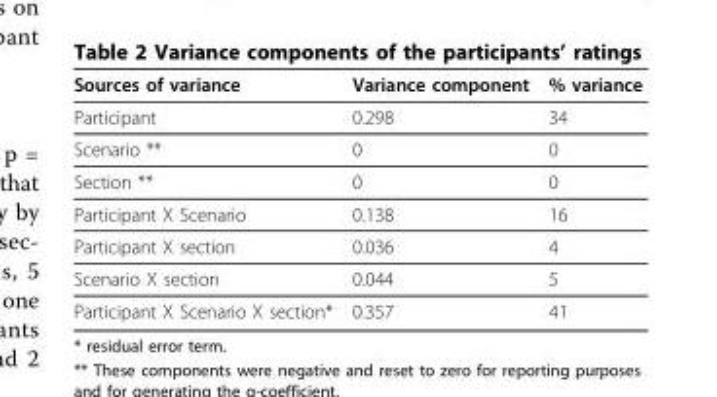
<table><thead><tr><td>Sources of variance</td><td>Variance component</td><td>% variance</td></tr></thead><tbody><tr><td>Participant</td><td>0.298</td><td>34</td></tr><tr><td>Scenario **</td><td>0</td><td>0</td></tr><tr><td>Section **</td><td>0</td><td>0</td></tr><tr><td>Participant X Scenario</td><td>0.138</td><td>16</td></tr><tr><td>Participant X section</td><td>0.036</td><td>4</td></tr><tr><td>Scenario X section</td><td>0.044</td><td>5</td></tr><tr><td>Participant X Scenario X section*</td><td>0.357</td><td>41</td></tr></tbody></table>